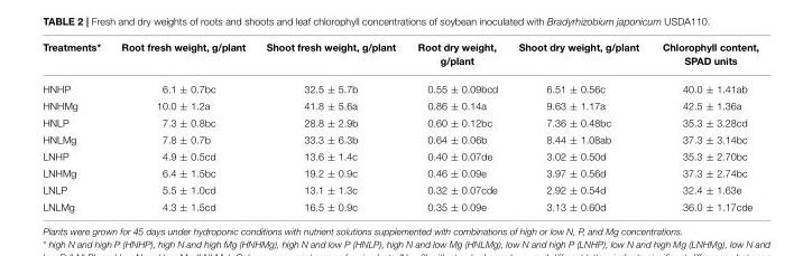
<table><thead><tr><td>Treatments*</td><td>Root fresh weight, g/plant</td><td>Shoot fresh weight, g/plant</td><td>Root dry weight, g/plant</td><td>Shoot dry weight, g/plant</td><td>Chlorophyll content, SPAD units</td></tr></thead><tbody><tr><td>HNHP</td><td>6.1 ± 0.7bc</td><td>32.5 ± 5.7b</td><td>0.55 ± 0.09bcd</td><td>6.51 ± 0.56c</td><td>40.0 ± 1.41ab</td></tr><tr><td>HNHMg</td><td>10.0 ± 1.2a</td><td>41.8 ± 5.6a</td><td>0.86 ± 0.14a</td><td>9.63 ± 1.17a</td><td>42.5 ± 1.36a</td></tr><tr><td>HNLP</td><td>7.3 ± 0.8bc</td><td>28.8 ± 2.9b</td><td>0.60 ± 0.12bc</td><td>7.36 ± 0.48bc</td><td>35.3 ± 3.28cd</td></tr><tr><td>HNLMg</td><td>7.8 ± 0.7b</td><td>33.3 ± 6.3b</td><td>0.64 ± 0.06b</td><td>8.44 ± 1.08ab</td><td>37.3 ± 3.14bc</td></tr><tr><td>LNHP</td><td>4.9 ± 0.5cd</td><td>13.6 ± 1.4c</td><td>0.40 ± 0.07de</td><td>3.02 ± 0.50d</td><td>35.3 ± 2.70bc</td></tr><tr><td>LNHMg</td><td>6.4 ± 1.5bc</td><td>19.2 ± 0.9c</td><td>0.46 ± 0.09e</td><td>3.97 ± 0.56d</td><td>37.3 ± 2.74bc</td></tr><tr><td>LNLP</td><td>5.5 ± 1.0cd</td><td>13.1 ± 1.3c</td><td>0.32 ± 0.07cde</td><td>2.92 ± 0.54d</td><td>32.4 ± 1.63e</td></tr><tr><td>LNLMg</td><td>4.3 ± 1.5cd</td><td>16.5 ± 0.9c</td><td>0.35 ± 0.09e</td><td>3.13 ± 0.60d</td><td>36.0 ± 1.17cde</td></tr></tbody></table>